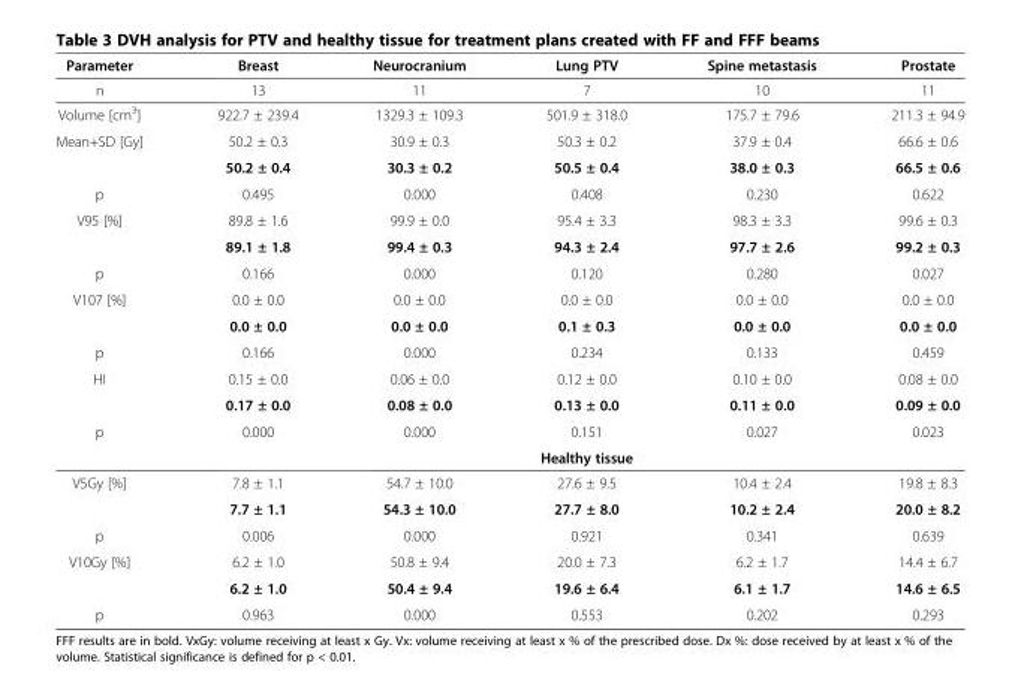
<table><thead><tr><td>Parameter</td><td>Breast</td><td>Neurocranium</td><td>Lung PTV</td><td>Spine metastasis</td><td>Prostate</td></tr></thead><tbody><tr><td>n</td><td>13</td><td>11</td><td>7</td><td>10</td><td>11</td></tr><tr><td>Volume [cm<sup>3</sup>]</td><td>922.7 ± 239.4</td><td>1329.3 ± 109.3</td><td>501.9 ± 318.0</td><td>175.7 ± 79.6</td><td>211.3 ± 94.9</td></tr><tr><td rowspan="2">Mean+SD [Gy]</td><td>50.2 ± 0.3</td><td>30.9 ± 0.3</td><td>50.3 ± 0.2</td><td>37.9 ± 0.4</td><td>66.6 ± 0.6</td></tr><tr><td>50.2 ± 0.4</td><td>30.3 ± 0.2</td><td>50.5 ± 0.4</td><td>38.0 ± 0.3</td><td>66.5 ± 0.6</td></tr><tr><td>p</td><td>0.495</td><td>0.000</td><td>0.408</td><td>0.230</td><td>0.622</td></tr><tr><td rowspan="2">V95 [%]</td><td>89.8 ± 1.6</td><td>99.9 ± 0.0</td><td>95.4 ± 3.3</td><td>98.3 ± 3.3</td><td>99.6 ± 0.3</td></tr><tr><td>89.1 ± 1.8</td><td>99.4 ± 0.3</td><td>94.3 ± 2.4</td><td>97.7 ± 2.6</td><td>99.2 ± 0.3</td></tr><tr><td>p</td><td>0.166</td><td>0.000</td><td>0.120</td><td>0.280</td><td>0.027</td></tr><tr><td rowspan="2">V107 [%]</td><td>0.0 ± 0.0</td><td>0.0 ± 0.0</td><td>0.0 ± 0.0</td><td>0.0 ± 0.0</td><td>0.0 ± 0.0</td></tr><tr><td>0.0 ± 0.0</td><td>0.0 ± 0.0</td><td>0.1 ± 0.3</td><td>0.0 ± 0.0</td><td>0.0 ± 0.0</td></tr><tr><td>p</td><td>0.166</td><td>0.000</td><td>0.234</td><td>0.133</td><td>0.459</td></tr><tr><td rowspan="2">HI</td><td>0.15 ± 0.0</td><td>0.06 ± 0.0</td><td>0.12 ± 0.0</td><td>0.10 ± 0.0</td><td>0.08 ± 0.0</td></tr><tr><td>0.17 ± 0.0</td><td>0.08 ± 0.0</td><td>0.13 ± 0.0</td><td>0.11 ± 0.0</td><td>0.09 ± 0.0</td></tr><tr><td rowspan="2">p</td><td>0.000</td><td>0.000</td><td>0.151</td><td>0.027</td><td>0.023</td></tr><tr><td></td><td></td><td>Healthy tissue</td><td></td><td></td></tr><tr><td rowspan="2">V5Gy [%]</td><td>7.8 ± 1.1</td><td>54.7 ± 10.0</td><td>27.6 ± 9.5</td><td>10.4 ± 2.4</td><td>19.8 ± 8.3</td></tr><tr><td>7.7 ± 1.1</td><td>54.3 ± 10.0</td><td>27.7 ± 8.0</td><td>10.2 ± 2.4</td><td>20.0 ± 8.2</td></tr><tr><td>p</td><td>0.006</td><td>0.000</td><td>0.921</td><td>0.341</td><td>0.639</td></tr><tr><td rowspan="2">V10Gy [%]</td><td>6.2 ± 1.0</td><td>50.8 ± 9.4</td><td>20.0 ± 7.3</td><td>6.2 ± 1.7</td><td>14.4 ± 6.7</td></tr><tr><td>6.2 ± 1.0</td><td>50.4 ± 9.4</td><td>19.6 ± 6.4</td><td>6.1 ± 1.7</td><td>14.6 ± 6.5</td></tr><tr><td>p</td><td>0.963</td><td>0.000</td><td>0.553</td><td>0.202</td><td>0.293</td></tr></tbody></table>